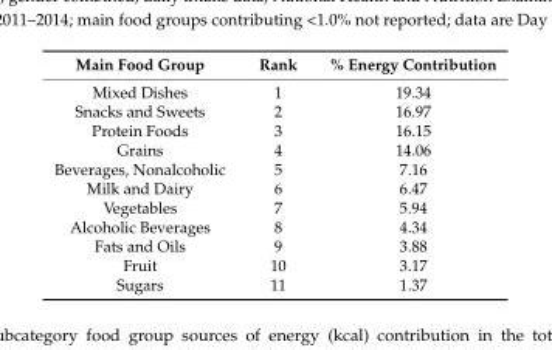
<table><thead><tr><td>Main Food Group</td><td>Rank</td><td>% Energy Contribution</td></tr></thead><tbody><tr><td>Mixed Dishes</td><td>1</td><td>19.34</td></tr><tr><td>Snacks and Sweets</td><td>2</td><td>16.97</td></tr><tr><td>Protein Foods</td><td>3</td><td>16.15</td></tr><tr><td>Grains</td><td>4</td><td>14.06</td></tr><tr><td>Beverages, Nonalcoholic</td><td>5</td><td>7.16</td></tr><tr><td>Milk and Dairy</td><td>6</td><td>6.47</td></tr><tr><td>Vegetables</td><td>7</td><td>5.94</td></tr><tr><td>Alcoholic Beverages</td><td>8</td><td>4.34</td></tr><tr><td>Fats and Oils</td><td>9</td><td>3.88</td></tr><tr><td>Fruit</td><td>10</td><td>3.17</td></tr><tr><td>Sugars</td><td>11</td><td>1.37</td></tr></tbody></table>